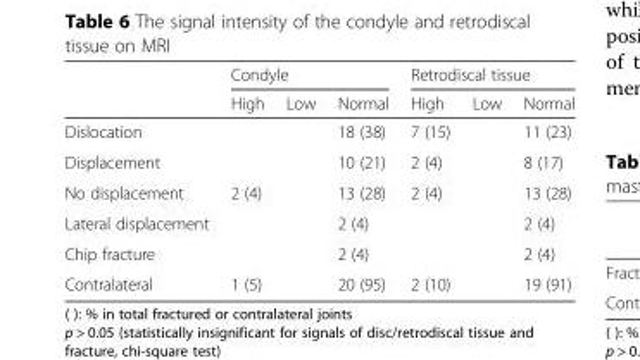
<table><thead><tr><td rowspan="2"></td><td colspan="3">Condyle</td><td colspan="3">Retrodiscal tissue</td></tr><tr><td>High</td><td>Low</td><td>Normal</td><td>High</td><td>Low</td><td>Normal</td></tr></thead><tbody><tr><td>Dislocation</td><td></td><td></td><td>18 (38)</td><td>7 (15)</td><td></td><td>11 (23)</td></tr><tr><td>Displacement</td><td></td><td></td><td>10 (21)</td><td>2 (4)</td><td></td><td>8 (17)</td></tr><tr><td>No displacement</td><td>2 (4)</td><td></td><td>13 (28)</td><td>2 (4)</td><td></td><td>13 (28)</td></tr><tr><td>Lateral displacement</td><td></td><td></td><td>2 (4)</td><td></td><td></td><td>2 (4)</td></tr><tr><td>Chip fracture</td><td></td><td></td><td>2 (4)</td><td></td><td></td><td>2 (4)</td></tr><tr><td>Contralateral</td><td>1 (5)</td><td></td><td>20 (95)</td><td>2 (10)</td><td></td><td>19 (91)</td></tr></tbody></table>